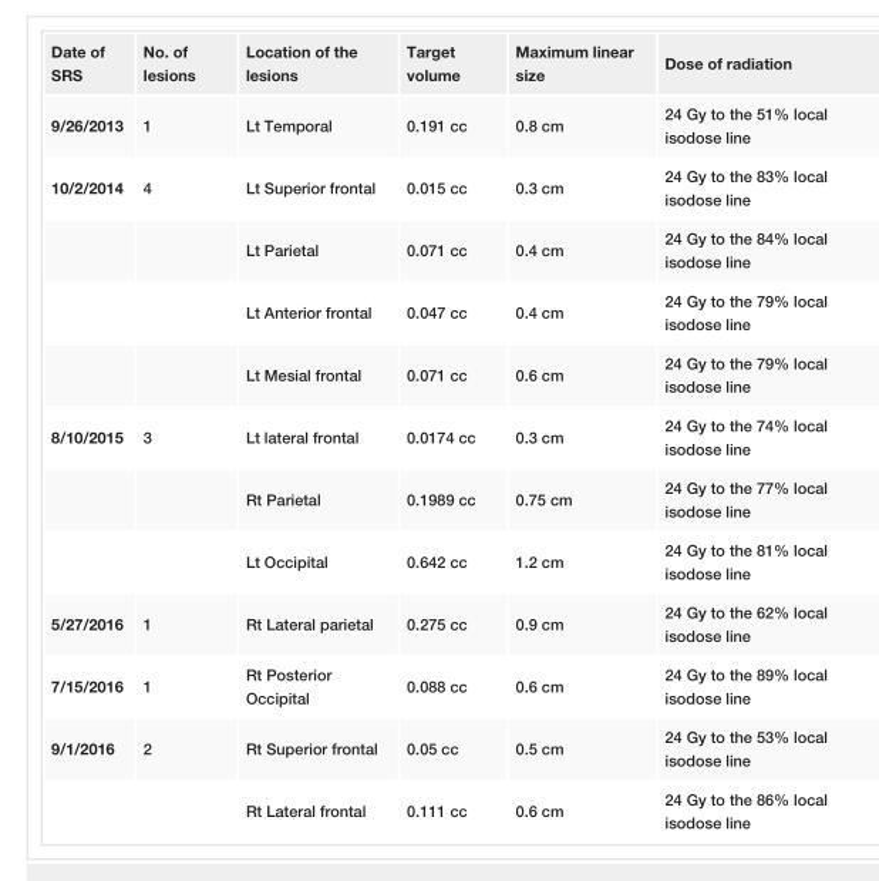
<table><tbody><tr><td>Date of SRS</td><td>No. of lesions</td><td>Location of the lesions</td><td>Target volume</td><td>Maximum linear size</td><td>Dose of radiation</td></tr><tr><td>9/26/2013</td><td>1</td><td>Lt Temporal</td><td>0.191 cc</td><td>0.8 cm</td><td>24 Gy to the 51% local isodose line</td></tr><tr><td rowspan="4">10/2/2014</td><td>4</td><td>Lt Superior frontal</td><td>0.015 cc</td><td>0.3 cm</td><td>24 Gy to the 83% local isodose line</td></tr><tr><td></td><td>Lt Parietal</td><td>0.071 cc</td><td>0.4 cm</td><td>24 Gy to the 84% local isodose line</td></tr><tr><td></td><td>Lt Anterior frontal</td><td>0.047 cc</td><td>0.4 cm</td><td>24 Gy to the 79% local isodose line</td></tr><tr><td></td><td>Lt Mesial frontal</td><td>0.071 cc</td><td>0.6 cm</td><td>24 Gy to the 79% local isodose line</td></tr><tr><td rowspan="3">8/10/2015</td><td>3</td><td>Lt lateral frontal</td><td>0.0174 cc</td><td>0.3 cm</td><td>24 Gy to the 74% local isodose line</td></tr><tr><td></td><td>Rt Parietal</td><td>0.1989 cc</td><td>0.75 cm</td><td>24 Gy to the 77% local isodose line</td></tr><tr><td></td><td>Lt Occipital</td><td>0.642 cc</td><td>1.2 cm</td><td>24 Gy to the 81% local isodose line</td></tr><tr><td>5/27/2016</td><td>1</td><td>Rt Lateral parietal</td><td>0.275 cc</td><td>0.9 cm</td><td>24 Gy to the 62% local isodose line</td></tr><tr><td>7/15/2016</td><td>1</td><td>Rt Posterior Occipital</td><td>0.088 cc</td><td>0.6 cm</td><td>24 Gy to the 89% local isodose line</td></tr><tr><td rowspan="2">9/1/2016</td><td>2</td><td>Rt Superior frontal</td><td>0.05 cc</td><td>0.5 cm</td><td>24 Gy to the 53% local isodose line</td></tr><tr><td></td><td>Rt Lateral frontal</td><td>0.111 cc</td><td>0.6 cm</td><td>24 Gy to the 86% local isodose line</td></tr></tbody></table>